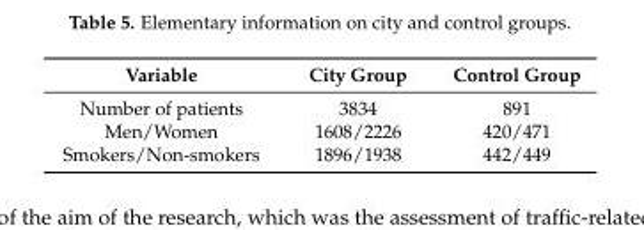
<table><thead><tr><td>Variable</td><td>City Group</td><td>Control Group</td></tr></thead><tbody><tr><td>Number of patients</td><td>3834</td><td>891</td></tr><tr><td>Men/Women</td><td>1608/2226</td><td>420/471</td></tr><tr><td>Smokers/Non-smokers</td><td>1896/1938</td><td>442/449</td></tr></tbody></table>